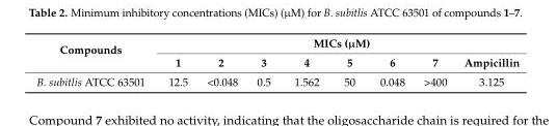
<table><thead><tr><td rowspan="2">Compounds</td><td colspan="8">MICs (µM)</td></tr><tr><td>1</td><td>2</td><td>3</td><td>4</td><td>5</td><td>6</td><td>7</td><td>Ampicillin</td></tr></thead><tbody><tr><td>B. subitlis ATCC 63501</td><td>12.5</td><td>&lt;0.048</td><td>0.5</td><td>1.562</td><td>50</td><td>0.048</td><td>&gt;400</td><td>3.125</td></tr></tbody></table>